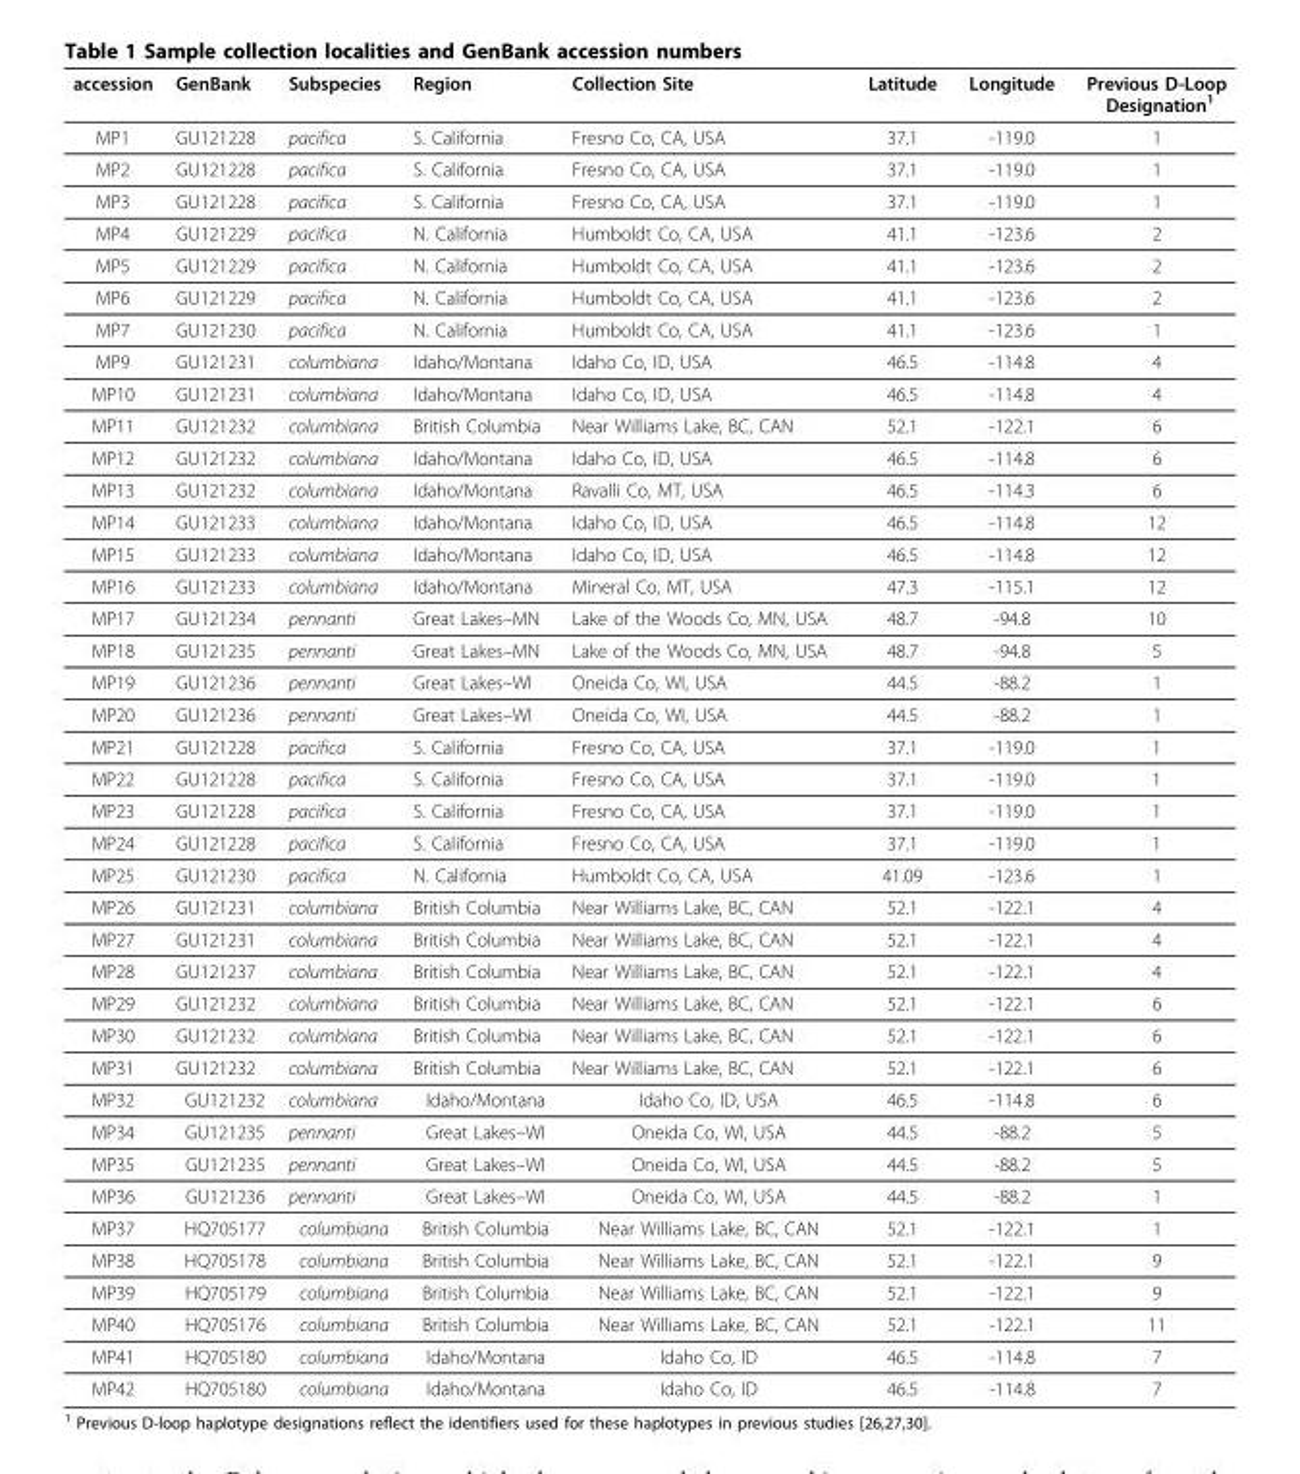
<table><thead><tr><td>accession</td><td>GenBank</td><td>Subspecies</td><td>Region</td><td>Collection Site</td><td>Latitude</td><td>Longitude</td><td>Previous D-Loop Designation<sup>1</sup></td></tr></thead><tbody><tr><td>MP1</td><td>GU121228</td><td>pacifica</td><td>S. California</td><td>Fresno Co, CA, USA</td><td>37.1</td><td>-119.0</td><td>1</td></tr><tr><td>MP2</td><td>GU121228</td><td>pacifica</td><td>S. California</td><td>Fresno Co, CA, USA</td><td>37.1</td><td>-119.0</td><td>1</td></tr><tr><td>MP3</td><td>GU121228</td><td>pacifica</td><td>S. California</td><td>Fresno Co, CA, USA</td><td>37.1</td><td>-119.0</td><td>1</td></tr><tr><td>MP4</td><td>GU121229</td><td>pacifica</td><td>N. California</td><td>Humboldt Co, CA, USA</td><td>41.1</td><td>-123.6</td><td>2</td></tr><tr><td>MP5</td><td>GU121229</td><td>pacifica</td><td>N. California</td><td>Humboldt Co, CA, USA</td><td>41.1</td><td>-123.6</td><td>2</td></tr><tr><td>MP6</td><td>GU121229</td><td>pacifica</td><td>N. California</td><td>Humboldt Co, CA, USA</td><td>41.1</td><td>-123.6</td><td>2</td></tr><tr><td>MP7</td><td>GU121230</td><td>pacifica</td><td>N. California</td><td>Humboldt Co, CA, USA</td><td>41.1</td><td>-123.6</td><td>1</td></tr><tr><td>MP9</td><td>GU121231</td><td>columbiana</td><td>Idaho/Montana</td><td>Idaho Co, ID, USA</td><td>46.5</td><td>-114.8</td><td>4</td></tr><tr><td>MP10</td><td>GU121231</td><td>columbiana</td><td>Idaho/Montana</td><td>Idaho Co, ID, USA</td><td>46.5</td><td>-114.8</td><td>4</td></tr><tr><td>MP11</td><td>GU121232</td><td>columbiana</td><td>British Columbia</td><td>Near Williams Lake, BC, CAN</td><td>52.1</td><td>-122.1</td><td>6</td></tr><tr><td>MP12</td><td>GU121232</td><td>columbiana</td><td>Idaho/Montana</td><td>Idaho Co, ID, USA</td><td>46.5</td><td>-114.8</td><td>6</td></tr><tr><td>MP13</td><td>GU121232</td><td>columbiana</td><td>Idaho/Montana</td><td>Ravalli Co, MT, USA</td><td>46.5</td><td>-114.3</td><td>6</td></tr><tr><td>MP14</td><td>GU121233</td><td>columbiana</td><td>Idaho/Montana</td><td>Idaho Co, ID, USA</td><td>46.5</td><td>-114.8</td><td>12</td></tr><tr><td>MP15</td><td>GU121233</td><td>columbiana</td><td>Idaho/Montana</td><td>Idaho Co, ID, USA</td><td>46.5</td><td>-114.8</td><td>12</td></tr><tr><td>MP16</td><td>GU121233</td><td>columbiana</td><td>Idaho/Montana</td><td>Mineral Co, MT, USA</td><td>47.3</td><td>-115.1</td><td>12</td></tr><tr><td>MP17</td><td>GU121234</td><td>pennanti</td><td>Great Lakes–MN</td><td>Lake of the Woods Co, MN, USA</td><td>48.7</td><td>-94.8</td><td>10</td></tr><tr><td>MP18</td><td>GU121235</td><td>pennanti</td><td>Great Lakes–MN</td><td>Lake of the Woods Co, MN, USA</td><td>48.7</td><td>-94.8</td><td>5</td></tr><tr><td>MP19</td><td>GU121236</td><td>pennanti</td><td>Great Lakes–WI</td><td>Oneida Co, WI, USA</td><td>44.5</td><td>-88.2</td><td>1</td></tr><tr><td>MP20</td><td>GU121236</td><td>pennanti</td><td>Great Lakes–WI</td><td>Oneida Co, WI, USA</td><td>44.5</td><td>-88.2</td><td>1</td></tr><tr><td>MP21</td><td>GU121228</td><td>pacifica</td><td>S. California</td><td>Fresno Co, CA, USA</td><td>37.1</td><td>-119.0</td><td>1</td></tr><tr><td>MP22</td><td>GU121228</td><td>pacifica</td><td>S. California</td><td>Fresno Co, CA, USA</td><td>37.1</td><td>-119.0</td><td>1</td></tr><tr><td>MP23</td><td>GU121228</td><td>pacifica</td><td>S. California</td><td>Fresno Co, CA, USA</td><td>37.1</td><td>-119.0</td><td>1</td></tr><tr><td>MP24</td><td>GU121228</td><td>pacifica</td><td>S. California</td><td>Fresno Co, CA, USA</td><td>37.1</td><td>-119.0</td><td>1</td></tr><tr><td>MP25</td><td>GU121230</td><td>pacifica</td><td>N. California</td><td>Humboldt Co, CA, USA</td><td>41.09</td><td>-123.6</td><td>1</td></tr><tr><td>MP26</td><td>GU121231</td><td>columbiana</td><td>British Columbia</td><td>Near Williams Lake, BC, CAN</td><td>52.1</td><td>-122.1</td><td>4</td></tr><tr><td>MP27</td><td>GU121231</td><td>columbiana</td><td>British Columbia</td><td>Near Williams Lake, BC, CAN</td><td>52.1</td><td>-122.1</td><td>4</td></tr><tr><td>MP28</td><td>GU121237</td><td>columbiana</td><td>British Columbia</td><td>Near Williams Lake, BC, CAN</td><td>52.1</td><td>-122.1</td><td>4</td></tr><tr><td>MP29</td><td>GU121232</td><td>columbiana</td><td>British Columbia</td><td>Near Williams Lake, BC, CAN</td><td>52.1</td><td>-122.1</td><td>6</td></tr><tr><td>MP30</td><td>GU121232</td><td>columbiana</td><td>British Columbia</td><td>Near Williams Lake, BC, CAN</td><td>52.1</td><td>-122.1</td><td>6</td></tr><tr><td>MP31</td><td>GU121232</td><td>columbiana</td><td>British Columbia</td><td>Near Williams Lake, BC, CAN</td><td>52.1</td><td>-122.1</td><td>6</td></tr><tr><td>MP32</td><td>GU121232</td><td>columbiana</td><td>Idaho/Montana</td><td>Idaho Co, ID, USA</td><td>46.5</td><td>-114.8</td><td>6</td></tr><tr><td>MP34</td><td>GU121235</td><td>pennanti</td><td>Great Lakes–WI</td><td>Oneida Co, WI, USA</td><td>44.5</td><td>-88.2</td><td>5</td></tr><tr><td>MP35</td><td>GU121235</td><td>pennanti</td><td>Great Lakes–WI</td><td>Oneida Co, WI, USA</td><td>44.5</td><td>-88.2</td><td>5</td></tr><tr><td>MP36</td><td>GU121236</td><td>pennanti</td><td>Great Lakes–WI</td><td>Oneida Co, WI, USA</td><td>44.5</td><td>-88.2</td><td>1</td></tr><tr><td>MP37</td><td>HQ705177</td><td>columbiana</td><td>British Columbia</td><td>Near Williams Lake, BC, CAN</td><td>52.1</td><td>-122.1</td><td>1</td></tr><tr><td>MP38</td><td>HQ705178</td><td>columbiana</td><td>British Columbia</td><td>Near Williams Lake, BC, CAN</td><td>52.1</td><td>-122.1</td><td>9</td></tr><tr><td>MP39</td><td>HQ705179</td><td>columbiana</td><td>British Columbia</td><td>Near Williams Lake, BC, CAN</td><td>52.1</td><td>-122.1</td><td>9</td></tr><tr><td>MP40</td><td>HQ705176</td><td>columbiana</td><td>British Columbia</td><td>Near Williams Lake, BC, CAN</td><td>52.1</td><td>-122.1</td><td>11</td></tr><tr><td>MP41</td><td>HQ705180</td><td>columbiana</td><td>Idaho/Montana</td><td>Idaho Co, ID</td><td>46.5</td><td>-114.8</td><td>7</td></tr><tr><td>MP42</td><td>HQ705180</td><td>columbiana</td><td>Idaho/Montana</td><td>Idaho Co, ID</td><td>46.5</td><td>-114.8</td><td>7</td></tr></tbody></table>